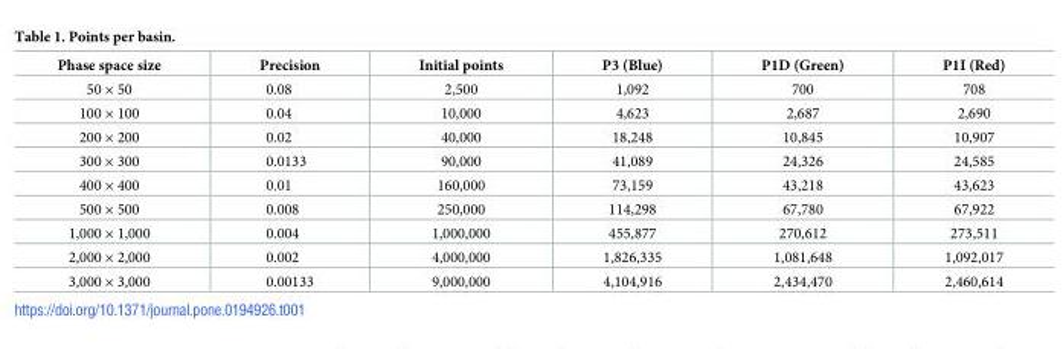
<table><thead><tr><td>Phase space size</td><td>Precision</td><td>Initial points</td><td>P3 (Blue)</td><td>P1D (Green)</td><td>P1I (Red)</td></tr></thead><tbody><tr><td>50 × 50</td><td>0.08</td><td>2,500</td><td>1,092</td><td>700</td><td>708</td></tr><tr><td>100 × 100</td><td>0.04</td><td>10,000</td><td>4,623</td><td>2,687</td><td>2,690</td></tr><tr><td>200 × 200</td><td>0.02</td><td>40,000</td><td>18,248</td><td>10,845</td><td>10,907</td></tr><tr><td>300 × 300</td><td>0.0133</td><td>90,000</td><td>41,089</td><td>24,326</td><td>24,585</td></tr><tr><td>400 × 400</td><td>0.01</td><td>160,000</td><td>73,159</td><td>43,218</td><td>43,623</td></tr><tr><td>500 × 500</td><td>0.008</td><td>250,000</td><td>114,298</td><td>67,780</td><td>67,922</td></tr><tr><td>1,000 × 1,000</td><td>0.004</td><td>1,000,000</td><td>455,877</td><td>270,612</td><td>273,511</td></tr><tr><td>2,000 × 2,000</td><td>0.002</td><td>4,000,000</td><td>1,826,335</td><td>1,081,648</td><td>1,092,017</td></tr><tr><td>3,000 × 3,000</td><td>0.00133</td><td>9,000,000</td><td>4,104,916</td><td>2,434,470</td><td>2,460,614</td></tr></tbody></table>